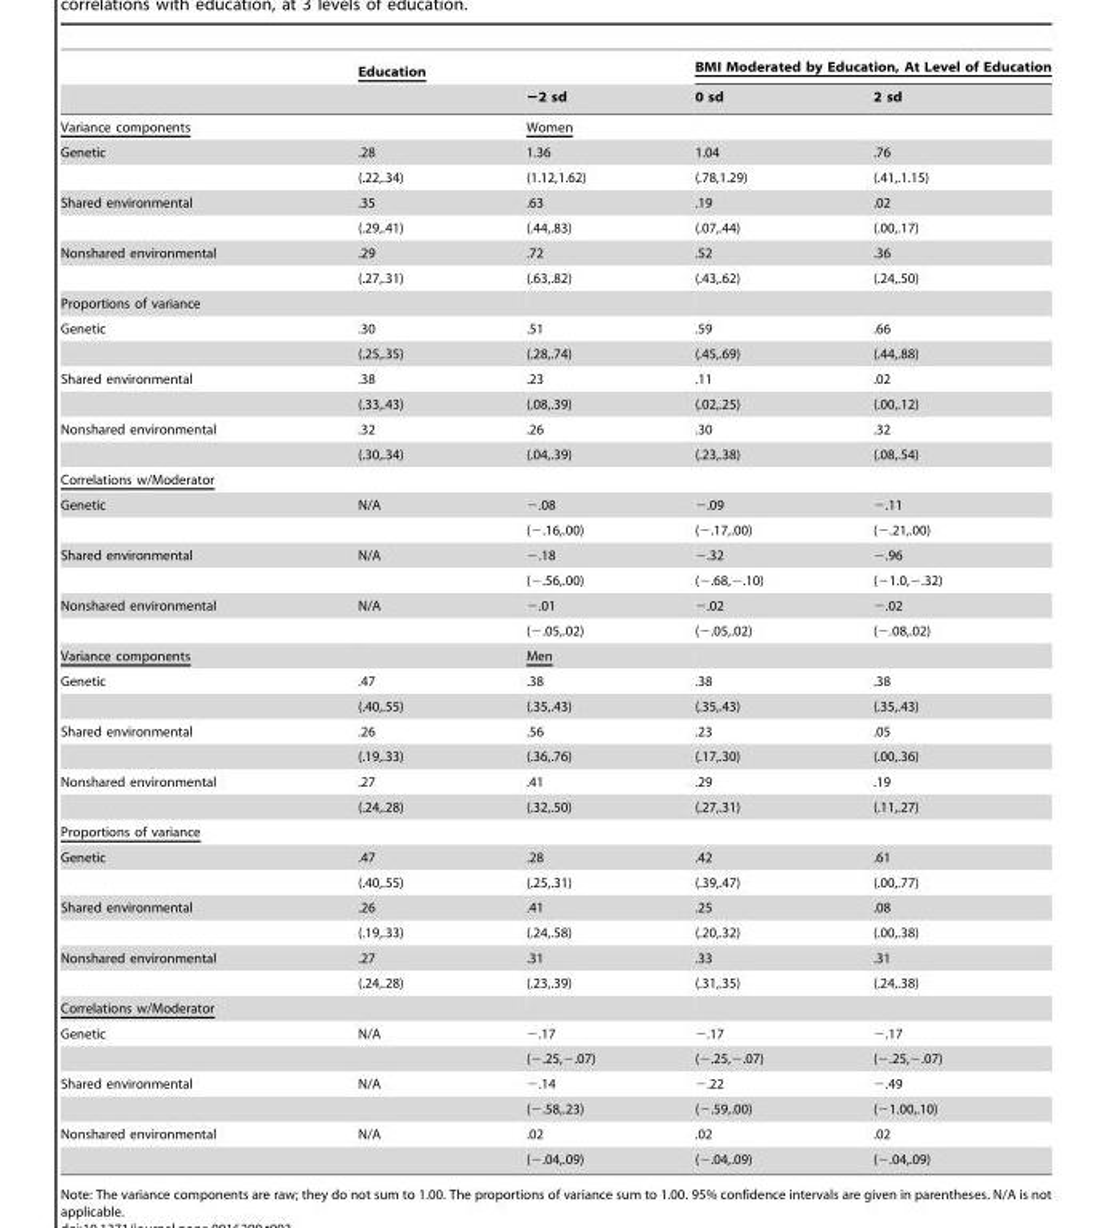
<table><thead><tr><td rowspan="2"></td><td rowspan="2">Education</td><td rowspan="2">−2 sd</td><td colspan="2">BMI Moderated by Education, At Level of Education</td></tr><tr><td>0 sd</td><td>2 sd</td></tr></thead><tbody><tr><td>Variance components</td><td></td><td>Women</td><td></td><td></td></tr><tr><td rowspan="2">Genetic</td><td>.28</td><td>1.36</td><td>1.04</td><td>.76</td></tr><tr><td>(.22,.34)</td><td>(1.12,1.62)</td><td>(.78,1.29)</td><td>(.41,.1.15)</td></tr><tr><td rowspan="2">Shared environmental</td><td>.35</td><td>.63</td><td>.19</td><td>.02</td></tr><tr><td>(.29,.41)</td><td>(.44,.83)</td><td>(.07,.44)</td><td>(.00,.17)</td></tr><tr><td rowspan="2">Nonshared environmental</td><td>.29</td><td>.72</td><td>.52</td><td>.36</td></tr><tr><td>(.27,.31)</td><td>(.63,.82)</td><td>(.43,.62)</td><td>(.24,.50)</td></tr><tr><td colspan="5">Proportions of variance</td></tr><tr><td rowspan="2">Genetic</td><td>.30</td><td>.51</td><td>.59</td><td>.66</td></tr><tr><td>(.25,.35)</td><td>(.28,.74)</td><td>(.45,.69)</td><td>(.44,.88)</td></tr><tr><td rowspan="2">Shared environmental</td><td>.38</td><td>.23</td><td>.11</td><td>.02</td></tr><tr><td>(.33,.43)</td><td>(.08,.39)</td><td>(.02,.25)</td><td>(.00,.12)</td></tr><tr><td rowspan="2">Nonshared environmental</td><td>.32</td><td>.26</td><td>.30</td><td>.32</td></tr><tr><td>(.30,.34)</td><td>(.04,.39)</td><td>(.23,.38)</td><td>(.08,.54)</td></tr><tr><td colspan="5">Correlations w/Moderator</td></tr><tr><td rowspan="2">Genetic</td><td>N/A</td><td>−.08</td><td>−.09</td><td>−.11</td></tr><tr><td></td><td>(−.16,.00)</td><td>(−.17,.00)</td><td>(−.21,.00)</td></tr><tr><td rowspan="2">Shared environmental</td><td>N/A</td><td>−.18</td><td>−.32</td><td>−.96</td></tr><tr><td></td><td>(−.56,.00)</td><td>(−.68,−.10)</td><td>(−1.0,−.32)</td></tr><tr><td rowspan="2">Nonshared environmental</td><td>N/A</td><td>−.01</td><td>−.02</td><td>−.02</td></tr><tr><td></td><td>(−.05,.02)</td><td>(−.05,.02)</td><td>(−.08,.02)</td></tr><tr><td>Variance components</td><td></td><td>Men</td><td></td><td></td></tr><tr><td rowspan="2">Genetic</td><td>.47</td><td>.38</td><td>.38</td><td>.38</td></tr><tr><td>(.40,.55)</td><td>(.35,.43)</td><td>(.35,.43)</td><td>(.35,.43)</td></tr><tr><td rowspan="2">Shared environmental</td><td>.26</td><td>.56</td><td>.23</td><td>.05</td></tr><tr><td>(.19,.33)</td><td>(.36,.76)</td><td>(.17,.30)</td><td>(.00,.36)</td></tr><tr><td rowspan="2">Nonshared environmental</td><td>.27</td><td>.41</td><td>.29</td><td>.19</td></tr><tr><td>(.24,.28)</td><td>(.32,.50)</td><td>(.27,.31)</td><td>(.11,.27)</td></tr><tr><td colspan="5">Proportions of variance</td></tr><tr><td rowspan="2">Genetic</td><td>.47</td><td>.28</td><td>.42</td><td>.61</td></tr><tr><td>(.40,.55)</td><td>(.25,.31)</td><td>(.39,.47)</td><td>(.00,.77)</td></tr><tr><td rowspan="2">Shared environmental</td><td>.26</td><td>.41</td><td>.25</td><td>.08</td></tr><tr><td>(.19,.33)</td><td>(.24,.58)</td><td>(.20,.32)</td><td>(.00,.38)</td></tr><tr><td rowspan="2">Nonshared environmental</td><td>.27</td><td>.31</td><td>.33</td><td>.31</td></tr><tr><td>(.24,.28)</td><td>(.23,.39)</td><td>(.31,.35)</td><td>(.24,.38)</td></tr><tr><td colspan="5">Correlations w/Moderator</td></tr><tr><td rowspan="2">Genetic</td><td>N/A</td><td>−.17</td><td>−.17</td><td>−.17</td></tr><tr><td></td><td>(−.25,−.07)</td><td>(−.25,−.07)</td><td>(−.25,−.07)</td></tr><tr><td rowspan="2">Shared environmental</td><td>N/A</td><td>−.14</td><td>−.22</td><td>−.49</td></tr><tr><td></td><td>(−.58,.23)</td><td>(−.59,.00)</td><td>(−1.00,.10)</td></tr><tr><td rowspan="2">Nonshared environmental</td><td>N/A</td><td>.02</td><td>.02</td><td>.02</td></tr><tr><td></td><td>(−.04,.09)</td><td>(−.04,.09)</td><td>(−.04,.09)</td></tr></tbody></table>